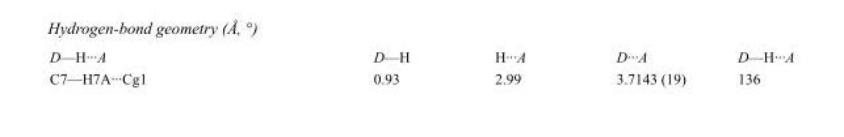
<table><tbody><tr><td>D—H···A</td><td>D—H</td><td>H···A</td><td>D···A</td><td>D—H···A</td></tr><tr><td>C7—H7A···Cg1</td><td>0.93</td><td>2.99</td><td>3.7143 (19)</td><td>136</td></tr></tbody></table>